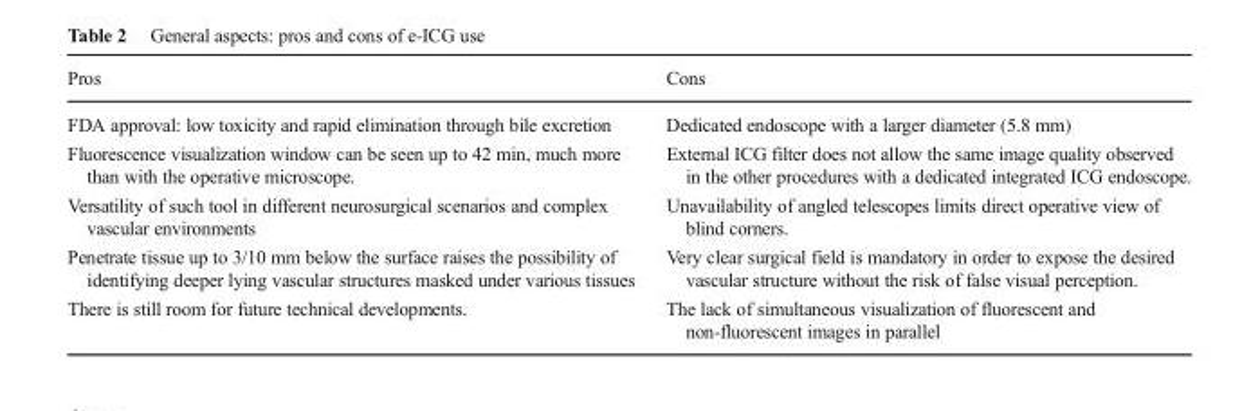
<table><thead><tr><td>Pros</td><td>Cons</td></tr></thead><tbody><tr><td>FDA approval: low toxicity and rapid elimination through bile excretion</td><td>Dedicated endoscope with a larger diameter (5.8 mm)</td></tr><tr><td>Fluorescence visualization window can be seen up to 42 min, much more than with the operative microscope.</td><td>External ICG filter does not allow the same image quality observed in the other procedures with a dedicated integrated ICG endoscope.</td></tr><tr><td>Versatility of such tool in different neurosurgical scenarios and complex vascular environments</td><td>Unavailability of angled telescopes limits direct operative view of blind corners.</td></tr><tr><td>Penetrate tissue up to 3/10 mm below the surface raises the possibility of identifying deeper lying vascular structures masked under various tissues</td><td>Very clear surgical field is mandatory in order to expose the desired vascular structure without the risk of false visual perception.</td></tr><tr><td>There is still room for future technical developments.</td><td>The lack of simultaneous visualization of fluorescent and non-fluorescent images in parallel</td></tr></tbody></table>